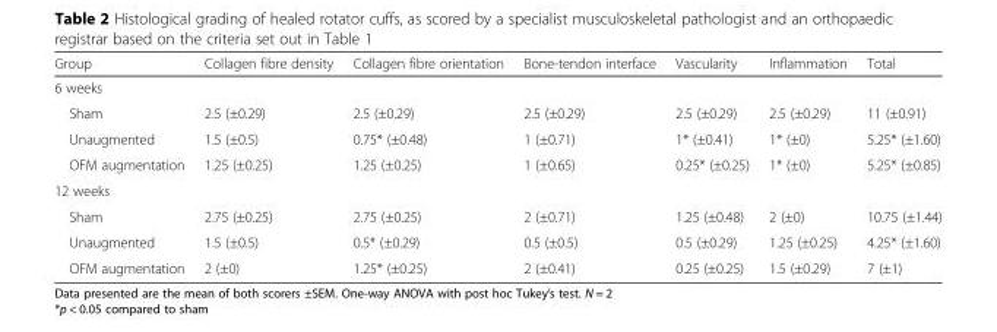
<table><thead><tr><td>Group</td><td>Collagen fibre density</td><td>Collagen fibre orientation</td><td>Bone-tendon interface</td><td>Vascularity</td><td>Inflammation</td><td>Total</td></tr></thead><tbody><tr><td colspan="7">6 weeks</td></tr><tr><td>Sham</td><td>2.5 (±0.29)</td><td>2.5 (±0.29)</td><td>2.5 (±0.29)</td><td>2.5 (±0.29)</td><td>2.5 (±0.29)</td><td>11 (±0.91)</td></tr><tr><td>Unaugmented</td><td>1.5 (±0.5)</td><td>0.75* (±0.48)</td><td>1 (±0.71)</td><td>1* (±0.41)</td><td>1* (±0)</td><td>5.25* (±1.60)</td></tr><tr><td>OFM augmentation</td><td>1.25 (±0.25)</td><td>1.25 (±0.25)</td><td>1 (±0.65)</td><td>0.25* (±0.25)</td><td>1* (±0)</td><td>5.25* (±0.85)</td></tr><tr><td colspan="7">12 weeks</td></tr><tr><td>Sham</td><td>2.75 (±0.25)</td><td>2.75 (±0.25)</td><td>2 (±0.71)</td><td>1.25 (±0.48)</td><td>2 (±0)</td><td>10.75 (±1.44)</td></tr><tr><td>Unaugmented</td><td>1.5 (±0.5)</td><td>0.5* (±0.29)</td><td>0.5 (±0.5)</td><td>0.5 (±0.29)</td><td>1.25 (±0.25)</td><td>4.25* (±1.60)</td></tr><tr><td>OFM augmentation</td><td>2 (±0)</td><td>1.25* (±0.25)</td><td>2 (±0.41)</td><td>0.25 (±0.25)</td><td>1.5 (±0.29)</td><td>7 (±1)</td></tr></tbody></table>